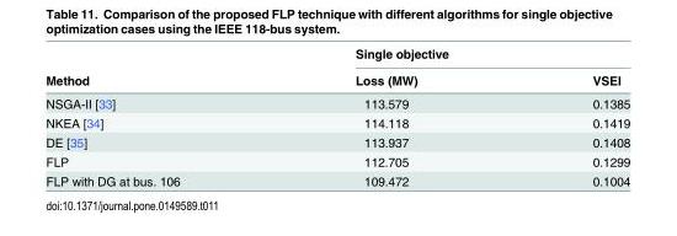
<table><thead><tr><td rowspan="2">Method</td><td colspan="2">Single objective</td></tr><tr><td>Loss (MW)</td><td>VSEI</td></tr></thead><tbody><tr><td>NSGA-II [33]</td><td>113.579</td><td>0.1385</td></tr><tr><td>NKEA [34]</td><td>114.118</td><td>0.1419</td></tr><tr><td>DE [35]</td><td>113.937</td><td>0.1408</td></tr><tr><td>FLP</td><td>112.705</td><td>0.1299</td></tr><tr><td>FLP with DG at bus. 106</td><td>109.472</td><td>0.1004</td></tr></tbody></table>